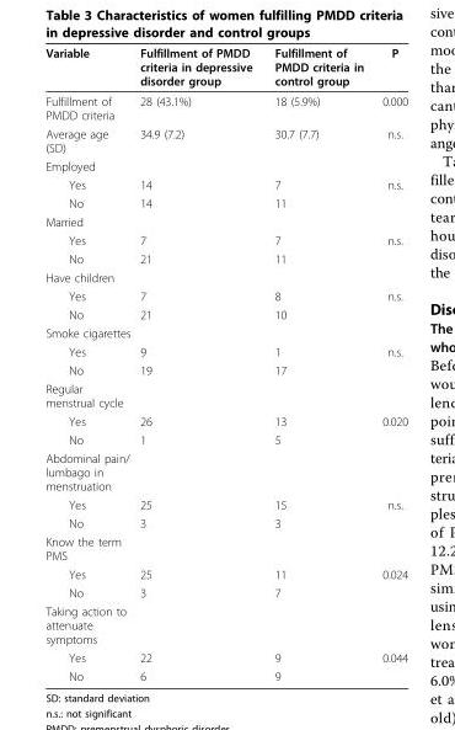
<table><thead><tr><td>Variable</td><td>Fulfillment of PMDD criteria in depressive disorder group</td><td>Fulfillment of PMDD criteria in control group</td><td>P</td></tr></thead><tbody><tr><td>Fulfillment of PMDD criteria</td><td>28 (43.1%)</td><td>18 (5.9%)</td><td>0.000</td></tr><tr><td>Average age (SD)</td><td>34.9 (7.2)</td><td>30.7 (7.7)</td><td>n.s.</td></tr><tr><td colspan="4">Employed</td></tr><tr><td>Yes</td><td>14</td><td>7</td><td>n.s.</td></tr><tr><td>No</td><td>14</td><td>11</td><td></td></tr><tr><td colspan="4">Married</td></tr><tr><td>Yes</td><td>7</td><td>7</td><td>n.s.</td></tr><tr><td>No</td><td>21</td><td>11</td><td></td></tr><tr><td colspan="4">Have children</td></tr><tr><td>Yes</td><td>7</td><td>8</td><td>n.s.</td></tr><tr><td>No</td><td>21</td><td>10</td><td></td></tr><tr><td colspan="4">Smoke cigarettes</td></tr><tr><td>Yes</td><td>9</td><td>1</td><td>n.s.</td></tr><tr><td>No</td><td>19</td><td>17</td><td></td></tr><tr><td colspan="4">Regular menstrual cycle</td></tr><tr><td>Yes</td><td>26</td><td>13</td><td>0.020</td></tr><tr><td>No</td><td>1</td><td>5</td><td></td></tr><tr><td colspan="4">Abdominal pain/ lumbago in menstruation</td></tr><tr><td>Yes</td><td>25</td><td>15</td><td>n.s.</td></tr><tr><td>No</td><td>3</td><td>3</td><td></td></tr><tr><td colspan="4">Know the term PMS</td></tr><tr><td>Yes</td><td>25</td><td>11</td><td>0.024</td></tr><tr><td>No</td><td>3</td><td>7</td><td></td></tr><tr><td colspan="4">Taking action to attenuate symptoms</td></tr><tr><td>Yes</td><td>22</td><td>9</td><td>0.044</td></tr><tr><td>No</td><td>6</td><td>9</td><td></td></tr></tbody></table>